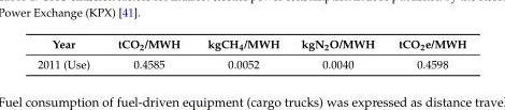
<table><thead><tr><td>Year</td><td>tCO<sub>2</sub>/MWH</td><td>kgCH<sub>4</sub>/MWH</td><td>kgN<sub>2</sub>O/MWH</td><td>tCO<sub>2</sub>e/MWH</td></tr></thead><tbody><tr><td>2011 (Use)</td><td>0.4585</td><td>0.0052</td><td>0.0040</td><td>0.4598</td></tr></tbody></table>